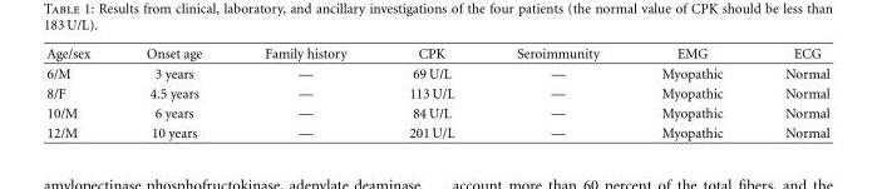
<table><thead><tr><td>Age/sex</td><td>Onset age</td><td>Family history</td><td>CPK</td><td>Seroimmunity</td><td>EMG</td><td>ECG</td></tr></thead><tbody><tr><td>6/M</td><td>3 years</td><td>—</td><td>69 U/L</td><td>—</td><td>Myopathic</td><td>Normal</td></tr><tr><td>8/F</td><td>4.5 years</td><td>—</td><td>113 U/L</td><td>—</td><td>Myopathic</td><td>Normal</td></tr><tr><td>10/M</td><td>6 years</td><td>—</td><td>84 U/L</td><td>—</td><td>Myopathic</td><td>Normal</td></tr><tr><td>12/M</td><td>10 years</td><td>—</td><td>201 U/L</td><td>—</td><td>Myopathic</td><td>Normal</td></tr></tbody></table>